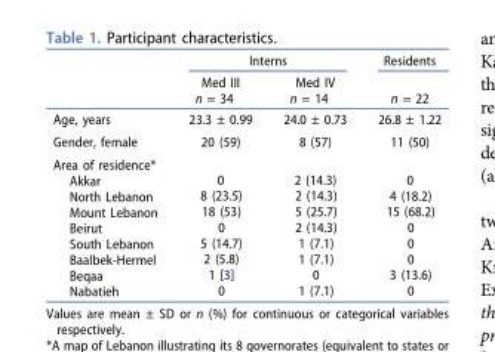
<table><thead><tr><td rowspan="2"></td><td colspan="2">Interns</td><td rowspan="2">Residents n = 22</td></tr><tr><td>Med III n = 34</td><td>Med IV n = 14</td></tr></thead><tbody><tr><td>Age, years</td><td>23.3 ± 0.99</td><td>24.0 ± 0.73</td><td>26.8 ± 1.22</td></tr><tr><td>Gender, female</td><td>20 (59)</td><td>8 (57)</td><td>11 (50)</td></tr><tr><td>Area of residence* Akkar North Lebanon Mount Lebanon Beirut South Lebanon Baalbek-Hermel Beqaa Nabatieh</td><td>0 8 (23.5) 18 (53) 0 5 (14.7) 2 (5.8) 1 [3] 0</td><td>2 (14.3) 2 (14.3) 5 (25.7) 2 (14.3) 1 (7.1) 1 (7.1) 0 1 (7.1)</td><td>0 4 (18.2) 15 (68.2) 0 0 0 3 (13.6) 0</td></tr></tbody></table>